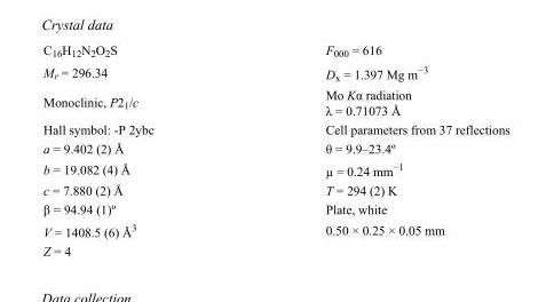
<table><tbody><tr><td>C<sub>16</sub>H<sub>12</sub>N<sub>2</sub>O<sub>2</sub>S</td><td>F<sub>000</sub> = 616</td></tr><tr><td>M<sub>r</sub> = 296.34</td><td>D<sub>x</sub> = 1.397 Mg m<sup>−3</sup></td></tr><tr><td>Monoclinic, P2<sub>1</sub>/c</td><td>Mo Kα radiation λ = 0.71073 Å</td></tr><tr><td>Hall symbol: -P 2ybc</td><td>Cell parameters from 37 reflections</td></tr><tr><td>a = 9.402 (2) Å</td><td>θ = 9.9–23.4º</td></tr><tr><td>b = 19.082 (4) Å</td><td>µ = 0.24 mm<sup>−1</sup></td></tr><tr><td>c = 7.880 (2) Å</td><td>T = 294 (2) K</td></tr><tr><td>β = 94.94 (1)º</td><td>Plate, white</td></tr><tr><td>V = 1408.5 (6) Å<sup>3</sup></td><td>0.50 × 0.25 × 0.05 mm</td></tr><tr><td>Z = 4</td><td></td></tr></tbody></table>